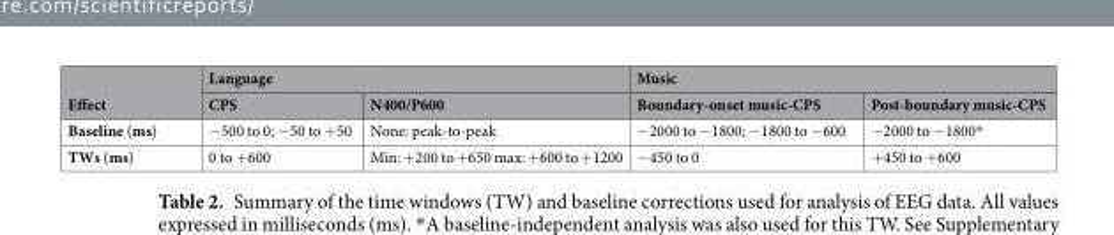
<table><thead><tr><td rowspan="2">Effect</td><td colspan="2">Language</td><td colspan="2">Music</td></tr><tr><td>CPS</td><td>N400/P600</td><td>Boundary-onset music-CPS</td><td>Post-boundary music-CPS</td></tr></thead><tbody><tr><td>Baseline (ms)</td><td>−500 to 0; −50 to +50</td><td>None: peak-to-peak</td><td>−2000 to −1800; −1800 to −600</td><td>−2000 to −1800*</td></tr><tr><td>TWs (ms)</td><td>0 to +600</td><td>Min: +200 to +650 max: +600 to +1200</td><td>−450 to 0</td><td>+450 to +600</td></tr></tbody></table>